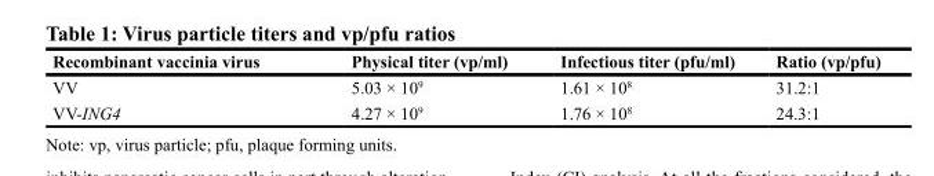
<table><thead><tr><td>Recombinant vaccinia virus</td><td>Physical titer (vp/ml)</td><td>Infectious titer (pfu/ml)</td><td>Ratio (vp/pfu)</td></tr></thead><tbody><tr><td>VV</td><td>5.03 × 10<sup>9</sup></td><td>1.61 × 10<sup>8</sup></td><td>31.2:1</td></tr><tr><td>VV-ING4</td><td>4.27 × 10<sup>9</sup></td><td>1.76 × 10<sup>8</sup></td><td>24.3:1</td></tr></tbody></table>